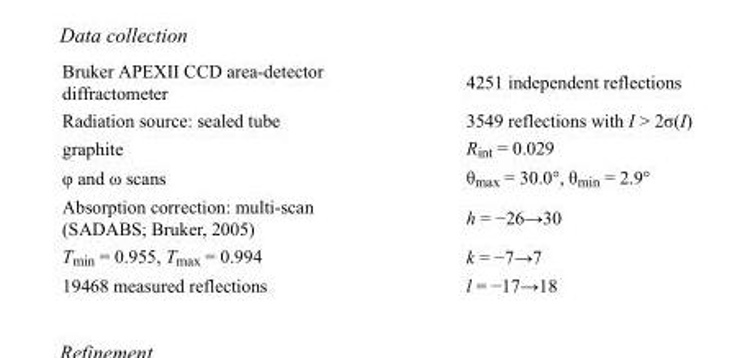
<table><tbody><tr><td>Bruker APEXII CCD area-detector diffractometer</td><td>4251 independent reflections</td></tr><tr><td>Radiation source: sealed tube</td><td>3549 reflections with I &gt; 2σ(I)</td></tr><tr><td>graphite</td><td>R<sub>int</sub> = 0.029</td></tr><tr><td>φ and ω scans</td><td>θ<sub>max</sub> = 30.0°, θ<sub>min</sub> = 2.9°</td></tr><tr><td>Absorption correction: multi-scan (SADABS; Bruker, 2005)</td><td>h = −26→30</td></tr><tr><td>T<sub>min</sub> = 0.955, T<sub>max</sub> = 0.994</td><td>k = −7→7</td></tr><tr><td>19468 measured reflections</td><td>l = −17→18</td></tr></tbody></table>